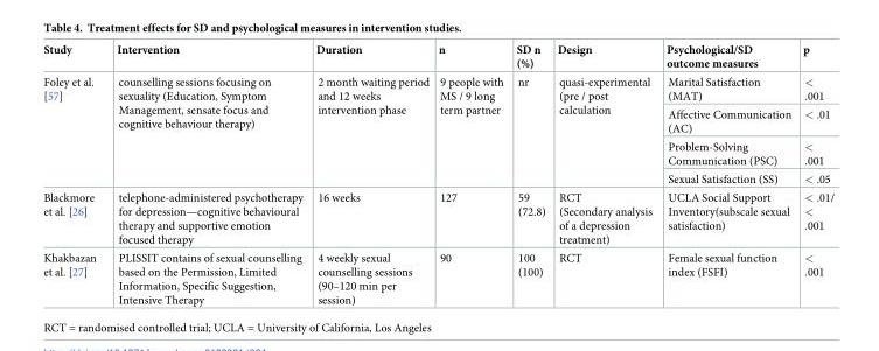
<table><thead><tr><td>Study</td><td>Intervention</td><td>Duration</td><td>n</td><td>SD n (%)</td><td>Design</td><td>Psychological/SD outcome measures</td><td>p</td></tr></thead><tbody><tr><td rowspan="4">Foley et al. [57]</td><td rowspan="4">counselling sessions focusing on sexuality (Education, Symptom Management, sensate focus and cognitive behaviour therapy)</td><td rowspan="4">2 month waiting period and 12 weeks intervention phase</td><td rowspan="4">9 people with MS / 9 long term partner</td><td rowspan="4">nr</td><td rowspan="4">quasi-experimental (pre / post calculation</td><td>Marital Satisfaction (MAT)</td><td>&lt; .001</td></tr><tr><td>Affective Communication (AC)</td><td>&lt; .01</td></tr><tr><td>Problem-Solving Communication (PSC)</td><td>&lt; .001</td></tr><tr><td>Sexual Satisfaction (SS)</td><td>&lt; .05</td></tr><tr><td>Blackmore et al. [26]</td><td>telephone-administered psychotherapy for depression—cognitive behavioural therapy and supportive emotion focused therapy</td><td>16 weeks</td><td>127</td><td>59 (72.8)</td><td>RCT (Secondary analysis of a depression treatment)</td><td>UCLA Social Support Inventory(subscale sexual satisfaction)</td><td>&lt; .01/ &lt; .001</td></tr><tr><td>Khakbazan et al. [27]</td><td>PLISSIT contains of sexual counselling based on the Permission, Limited Information, Specific Suggestion, Intensive Therapy</td><td>4 weekly sexual counselling sessions (90–120 min per session)</td><td>90</td><td>100 (100)</td><td>RCT</td><td>Female sexual function index (FSFI)</td><td>&lt; .001</td></tr></tbody></table>